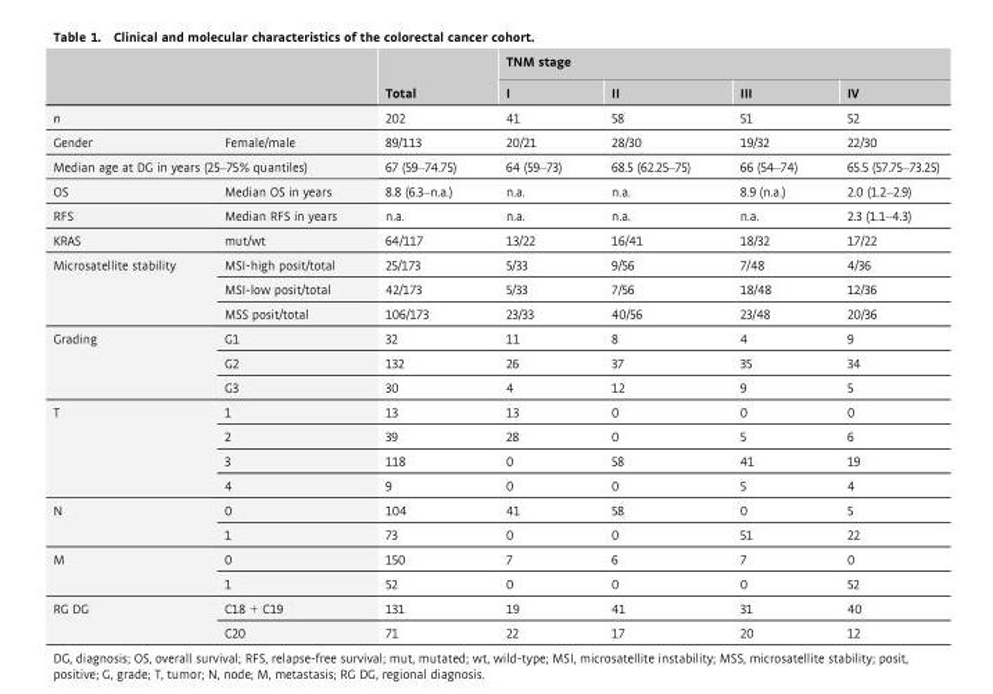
<table><thead><tr><td rowspan="2"></td><td rowspan="2"></td><td rowspan="2">Total</td><td colspan="4">TNM stage</td></tr><tr><td>I</td><td>II</td><td>III</td><td>IV</td></tr></thead><tbody><tr><td>n</td><td></td><td>202</td><td>41</td><td>58</td><td>51</td><td>52</td></tr><tr><td>Gender</td><td>Female/male</td><td>89/113</td><td>20/21</td><td>28/30</td><td>19/32</td><td>22/30</td></tr><tr><td colspan="2">Median age at DG in years (25–75% quantiles)</td><td>67 (59–74.75)</td><td>64 (59–73)</td><td>68.5 (62.25–75)</td><td>66 (54–74)</td><td>65.5 (57.75–73.25)</td></tr><tr><td>OS</td><td>Median OS in years</td><td>8.8 (6.3–n.a.)</td><td>n.a.</td><td>n.a.</td><td>8.9 (n.a.)</td><td>2.0 (1.2–2.9)</td></tr><tr><td>RFS</td><td>Median RFS in years</td><td>n.a.</td><td>n.a.</td><td>n.a.</td><td>n.a.</td><td>2.3 (1.1–4.3)</td></tr><tr><td>KRAS</td><td>mut/wt</td><td>64/117</td><td>13/22</td><td>16/41</td><td>18/32</td><td>17/22</td></tr><tr><td rowspan="3">Microsatellite stability</td><td>MSI-high posit/total</td><td>25/173</td><td>5/33</td><td>9/56</td><td>7/48</td><td>4/36</td></tr><tr><td>MSI-low posit/total</td><td>42/173</td><td>5/33</td><td>7/56</td><td>18/48</td><td>12/36</td></tr><tr><td>MSS posit/total</td><td>106/173</td><td>23/33</td><td>40/56</td><td>23/48</td><td>20/36</td></tr><tr><td rowspan="3">Grading</td><td>G1</td><td>32</td><td>11</td><td>8</td><td>4</td><td>9</td></tr><tr><td>G2</td><td>132</td><td>26</td><td>37</td><td>35</td><td>34</td></tr><tr><td>G3</td><td>30</td><td>4</td><td>12</td><td>9</td><td>5</td></tr><tr><td rowspan="4">T</td><td>1</td><td>13</td><td>13</td><td>0</td><td>0</td><td>0</td></tr><tr><td>2</td><td>39</td><td>28</td><td>0</td><td>5</td><td>6</td></tr><tr><td>3</td><td>118</td><td>0</td><td>58</td><td>41</td><td>19</td></tr><tr><td>4</td><td>9</td><td>0</td><td>0</td><td>5</td><td>4</td></tr><tr><td rowspan="2">N</td><td>0</td><td>104</td><td>41</td><td>58</td><td>0</td><td>5</td></tr><tr><td>1</td><td>73</td><td>0</td><td>0</td><td>51</td><td>22</td></tr><tr><td rowspan="2">M</td><td>0</td><td>150</td><td>7</td><td>6</td><td>7</td><td>0</td></tr><tr><td>1</td><td>52</td><td>0</td><td>0</td><td>0</td><td>52</td></tr><tr><td rowspan="2">RG DG</td><td>C18 + C19</td><td>131</td><td>19</td><td>41</td><td>31</td><td>40</td></tr><tr><td>C20</td><td>71</td><td>22</td><td>17</td><td>20</td><td>12</td></tr></tbody></table>